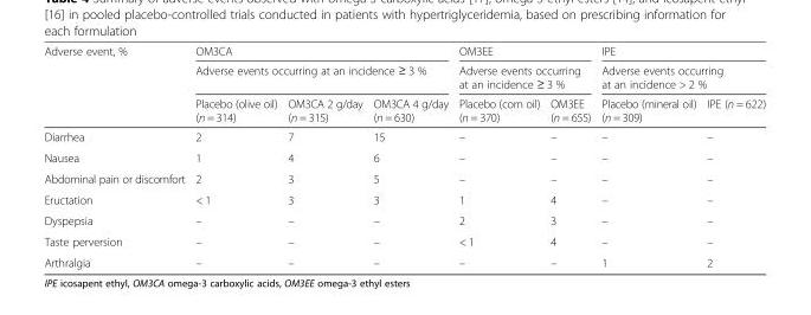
<table><thead><tr><td rowspan="3">Adverse event, %</td><td rowspan="2" colspan="3">OM3CA Adverse events occurring at an incidence ≥ 3 %</td><td rowspan="2" colspan="2">OM3EE Adverse events occurring at an incidence ≥ 3 %</td><td rowspan="2" colspan="2">IPE Adverse events occurring at an incidence &gt; 2 %</td></tr><tr></tr><tr><td>Placebo (olive oil) (n = 314)</td><td>OM3CA 2 g/day (n = 315)</td><td>OM3CA 4 g/day (n = 630)</td><td>Placebo (corn oil) (n = 370)</td><td>OM3EE (n = 655)</td><td>Placebo (mineral oil) (n = 309)</td><td>IPE (n = 622)</td></tr></thead><tbody><tr><td>Diarrhea</td><td>2</td><td>7</td><td>15</td><td>–</td><td>–</td><td>–</td><td>–</td></tr><tr><td>Nausea</td><td>1</td><td>4</td><td>6</td><td>–</td><td>–</td><td>–</td><td>–</td></tr><tr><td>Abdominal pain or discomfort</td><td>2</td><td>3</td><td>5</td><td>–</td><td>–</td><td>–</td><td>–</td></tr><tr><td>Eructation</td><td>&lt; 1</td><td>3</td><td>3</td><td>1</td><td>4</td><td>–</td><td>–</td></tr><tr><td>Dyspepsia</td><td>–</td><td>–</td><td>–</td><td>2</td><td>3</td><td>–</td><td>–</td></tr><tr><td>Taste perversion</td><td>–</td><td>–</td><td>–</td><td>&lt; 1</td><td>4</td><td>–</td><td>–</td></tr><tr><td>Arthralgia</td><td>–</td><td>–</td><td>–</td><td>–</td><td>–</td><td>1</td><td>2</td></tr></tbody></table>